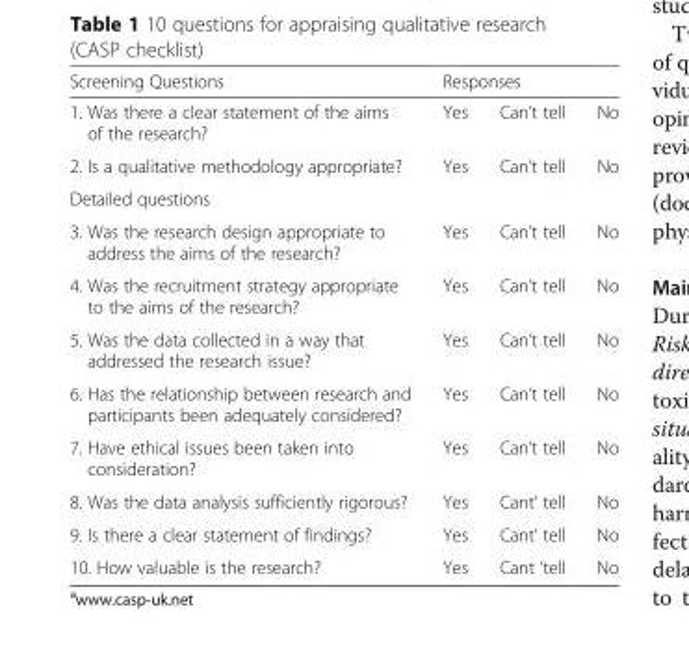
<table><thead><tr><td rowspan="2">Screening Questions 1. Was there a clear statement of the aims of the research?</td><td colspan="3">Responses</td></tr><tr><td>Yes</td><td>Can’t tell</td><td>No</td></tr></thead><tbody><tr><td>2. Is a qualitative methodology appropriate?</td><td>Yes</td><td>Can’t tell</td><td>No</td></tr><tr><td colspan="4">Detailed questions</td></tr><tr><td>3. Was the research design appropriate to address the aims of the research?</td><td>Yes</td><td>Can’t tell</td><td>No</td></tr><tr><td>4. Was the recruitment strategy appropriate to the aims of the research?</td><td>Yes</td><td>Can’t tell</td><td>No</td></tr><tr><td>5. Was the data collected in a way that addressed the research issue?</td><td>Yes</td><td>Can’t tell</td><td>No</td></tr><tr><td>6. Has the relationship between research and participants been adequately considered?</td><td>Yes</td><td>Can’t tell</td><td>No</td></tr><tr><td>7. Have ethical issues been taken into consideration?</td><td>Yes</td><td>Can’t tell</td><td>No</td></tr><tr><td>8. Was the data analysis sufficiently rigorous?</td><td>Yes</td><td>Cant’ tell</td><td>No</td></tr><tr><td>9. Is there a clear statement of findings?</td><td>Yes</td><td>Cant’ tell</td><td>No</td></tr><tr><td>10. How valuable is the research?</td><td>Yes</td><td>Cant ‘tell</td><td>No</td></tr></tbody></table>